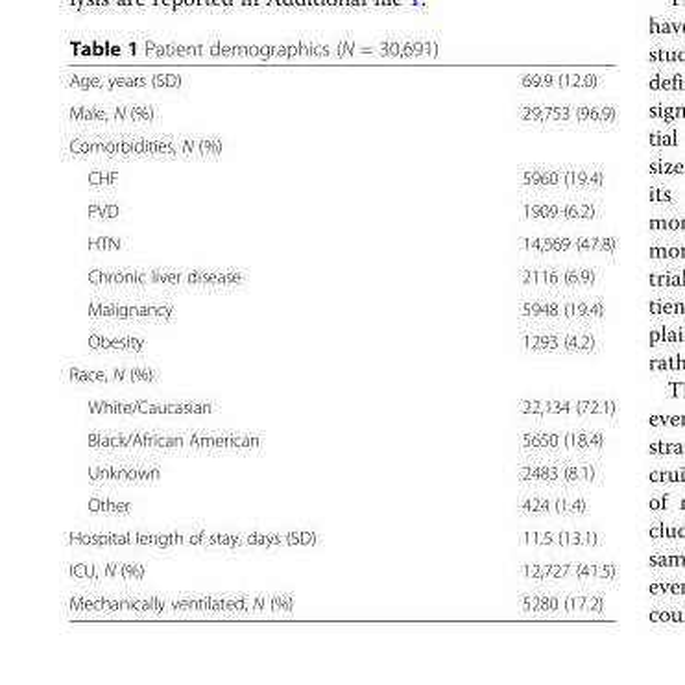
<table><tbody><tr><td>Age, years (SD)</td><td>69.9 (12.0)</td></tr><tr><td>Male, N (%)</td><td>29,753 (96.9)</td></tr><tr><td colspan="2">Comorbidities, N (%)</td></tr><tr><td>CHF</td><td>5960 (19.4)</td></tr><tr><td>PVD</td><td>1909 (6.2)</td></tr><tr><td>HTN</td><td>14,569 (47.8)</td></tr><tr><td>Chronic liver disease</td><td>2116 (6.9)</td></tr><tr><td>Malignancy</td><td>5948 (19.4)</td></tr><tr><td>Obesity</td><td>1293 (4.2)</td></tr><tr><td colspan="2">Race, N (%)</td></tr><tr><td>White/Caucasian</td><td>22,134 (72.1)</td></tr><tr><td>Black/African American</td><td>5650 (18.4)</td></tr><tr><td>Unknown</td><td>2483 (8.1)</td></tr><tr><td>Other</td><td>424 (1.4)</td></tr><tr><td>Hospital length of stay, days (SD)</td><td>11.5 (13.1)</td></tr><tr><td>ICU, N (%)</td><td>12,727 (41.5)</td></tr><tr><td>Mechanically ventilated, N (%)</td><td>5280 (17.2)</td></tr></tbody></table>